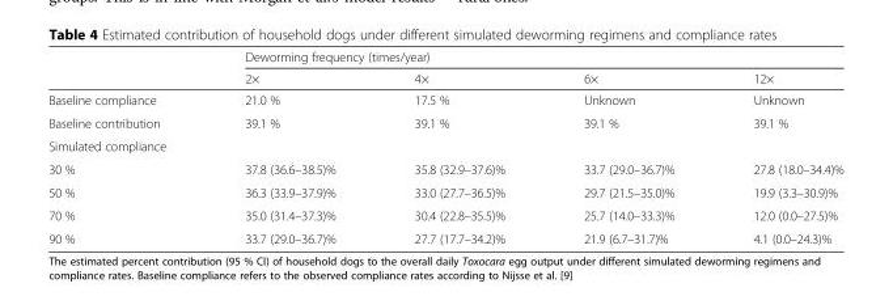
<table><thead><tr><td rowspan="2"></td><td colspan="4">Deworming frequency (times/year)</td></tr><tr><td>2×</td><td>4×</td><td>6×</td><td>12×</td></tr></thead><tbody><tr><td>Baseline compliance</td><td>21.0 %</td><td>17.5 %</td><td>Unknown</td><td>Unknown</td></tr><tr><td>Baseline contribution</td><td>39.1 %</td><td>39.1 %</td><td>39.1 %</td><td>39.1 %</td></tr><tr><td colspan="5">Simulated compliance</td></tr><tr><td>30 %</td><td>37.8 (36.6–38.5)%</td><td>35.8 (32.9–37.6)%</td><td>33.7 (29.0–36.7)%</td><td>27.8 (18.0–34.4)%</td></tr><tr><td>50 %</td><td>36.3 (33.9–37.9)%</td><td>33.0 (27.7–36.5)%</td><td>29.7 (21.5–35.0)%</td><td>19.9 (3.3–30.9)%</td></tr><tr><td>70 %</td><td>35.0 (31.4–37.3)%</td><td>30.4 (22.8–35.5)%</td><td>25.7 (14.0–33.3)%</td><td>12.0 (0.0–27.5)%</td></tr><tr><td>90 %</td><td>33.7 (29.0–36.7)%</td><td>27.7 (17.7–34.2)%</td><td>21.9 (6.7–31.7)%</td><td>4.1 (0.0–24.3)%</td></tr></tbody></table>